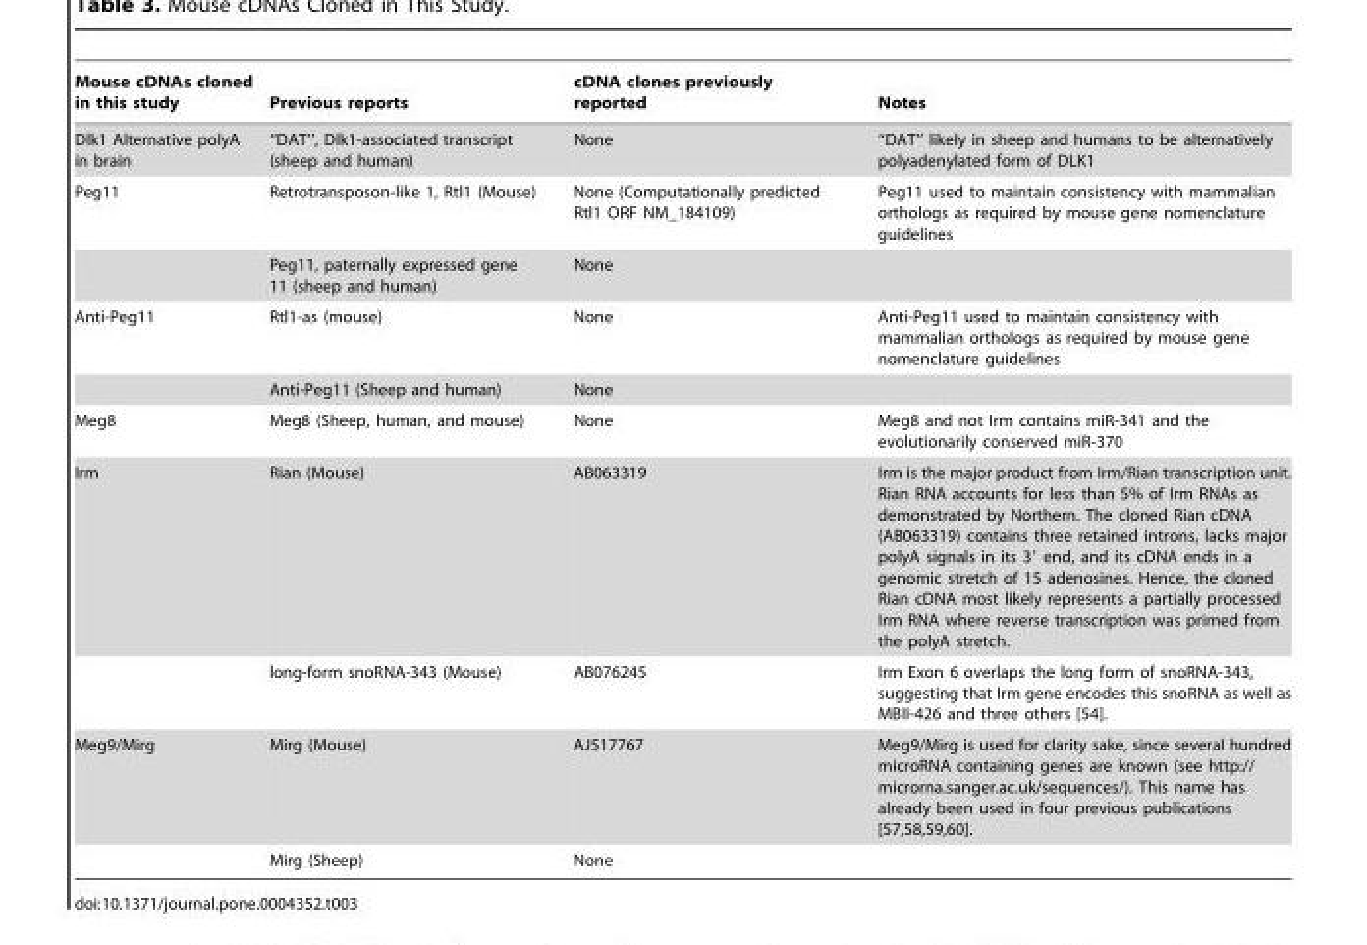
<table><thead><tr><td>Mouse cDNAs cloned in this study</td><td>Previous reports</td><td>cDNA clones previously reported</td><td>Notes</td></tr></thead><tbody><tr><td>Dlk1 Alternative polyA in brain</td><td>‘‘DAT’’, Dlk1-associated transcript (sheep and human)</td><td>None</td><td>‘‘DAT’’ likely in sheep and humans to be alternatively polyadenylated form of DLK1</td></tr><tr><td rowspan="2">Peg11</td><td>Retrotransposon-like 1, Rtl1 (Mouse)</td><td>None (Computationally predicted Rtl1 ORF NM_184109)</td><td>Peg11 used to maintain consistency with mammalian orthologs as required by mouse gene nomenclature guidelines</td></tr><tr><td>Peg11, paternally expressed gene 11 (sheep and human)</td><td>None</td><td></td></tr><tr><td rowspan="2">Anti-Peg11</td><td>Rtl1-as (mouse)</td><td>None</td><td>Anti-Peg11 used to maintain consistency with mammalian orthologs as required by mouse gene nomenclature guidelines</td></tr><tr><td>Anti-Peg11 (Sheep and human)</td><td>None</td><td></td></tr><tr><td>Meg8</td><td>Meg8 (Sheep, human, and mouse)</td><td>None</td><td>Meg8 and not Irm contains miR-341 and the evolutionarily conserved miR-370</td></tr><tr><td rowspan="2">Irm</td><td>Rian (Mouse)</td><td>AB063319</td><td>Irm is the major product from Irm/Rian transcription unit. Rian RNA accounts for less than 5% of Irm RNAs as demonstrated by Northern. The cloned Rian cDNA (AB063319) contains three retained introns, lacks major polyA signals in its 3′ end, and its cDNA ends in a genomic stretch of 15 adenosines. Hence, the cloned Rian cDNA most likely represents a partially processed Irm RNA where reverse transcription was primed from the polyA stretch.</td></tr><tr><td>long-form snoRNA-343 (Mouse)</td><td>AB076245</td><td>Irm Exon 6 overlaps the long form of snoRNA-343, suggesting that Irm gene encodes this snoRNA as well as MBII-426 and three others [54].</td></tr><tr><td rowspan="2">Meg9/Mirg</td><td>Mirg (Mouse)</td><td>AJ517767</td><td>Meg9/Mirg is used for clarity sake, since several hundred microRNA containing genes are known (see http:// microrna.sanger.ac.uk/sequences/). This name has already been used in four previous publications [57,58,59,60].</td></tr><tr><td>Mirg (Sheep)</td><td>None</td><td></td></tr></tbody></table>